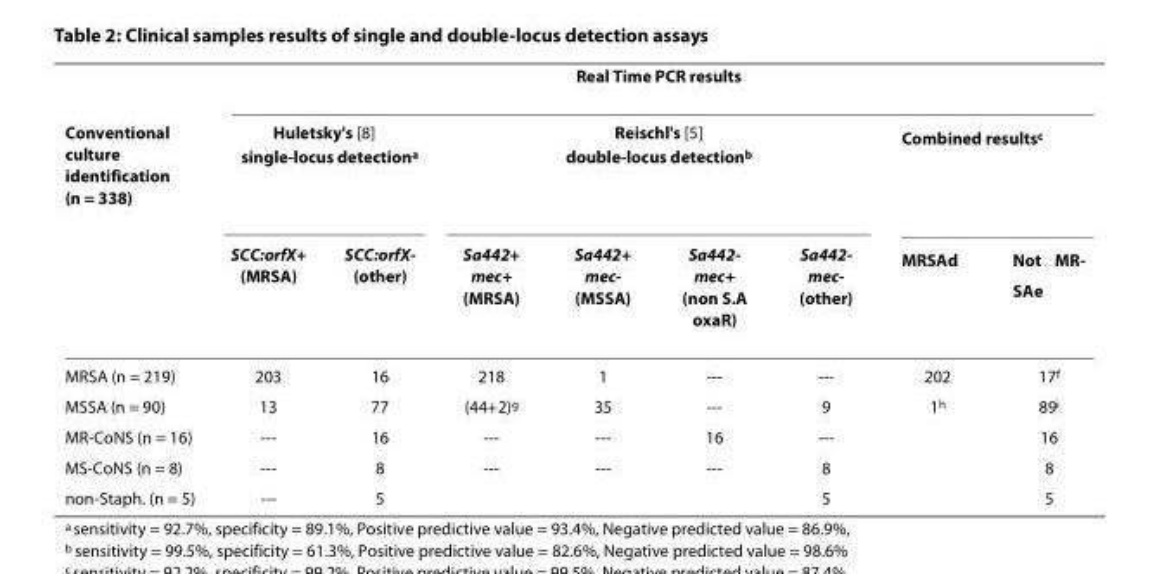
<table><thead><tr><td rowspan="3">Conventional culture identification (n = 338)</td><td colspan="8">Real Time PCR results</td></tr><tr><td colspan="2">Huletsky&#x27;s [8] single-locus detection<sup>a</sup></td><td colspan="4">Reischl&#x27;s [5] double-locus detection<sup>b</sup></td><td colspan="2">Combined results<sup>c</sup></td></tr><tr><td>SCC:orfX+ (MRSA)</td><td>SCC:orfX- (other)</td><td>Sa442+ mec+ (MRSA)</td><td>Sa442+ mec- (MSSA)</td><td>Sa442- mec+ (non S.A oxaR)</td><td>Sa442- mec- (other)</td><td>MRSA<sup>d</sup></td><td>Not MR- SAe</td></tr></thead><tbody><tr><td>MRSA (n = 219)</td><td>203</td><td>16</td><td>218</td><td>1</td><td>---</td><td>---</td><td>202</td><td>17<sup>f</sup></td></tr><tr><td>MSSA (n = 90)</td><td>13</td><td>77</td><td>(44+2)<sup>g</sup></td><td>35</td><td>---</td><td>9</td><td>1<sup>h</sup></td><td>89<sup>i</sup></td></tr><tr><td>MR-CoNS (n = 16)</td><td>---</td><td>16</td><td>---</td><td>---</td><td>16</td><td>---</td><td></td><td>16</td></tr><tr><td>MS-CoNS (n = 8)</td><td>---</td><td>8</td><td>---</td><td>---</td><td>---</td><td>8</td><td></td><td>8</td></tr><tr><td>non-Staph. (n = 5)</td><td>---</td><td>5</td><td></td><td></td><td></td><td>5</td><td></td><td>5</td></tr></tbody></table>